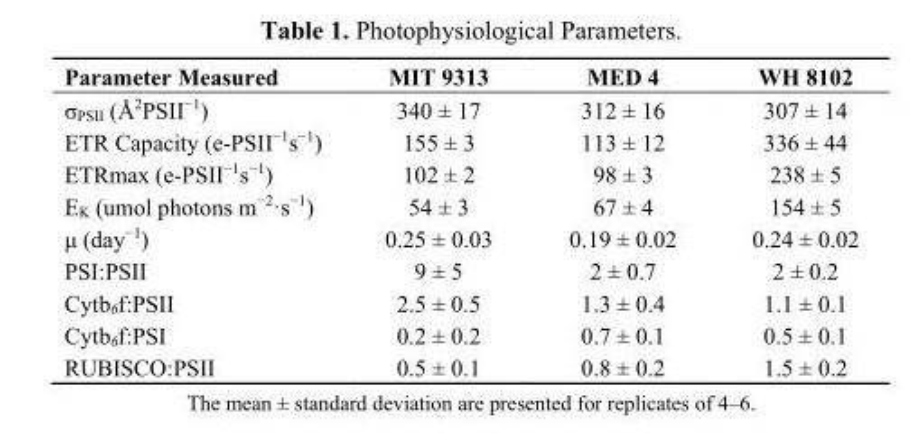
<table><thead><tr><td>Parameter Measured</td><td>MIT 9313</td><td>MED 4</td><td>WH 8102</td></tr></thead><tbody><tr><td>σ<sub>PSII</sub> (Å<sup>2</sup>PSII<sup>−1</sup>)</td><td>340 ± 17</td><td>312 ± 16</td><td>307 ± 14</td></tr><tr><td>ETR Capacity (e-PSII<sup>−1</sup>s<sup>−1</sup>)</td><td>155 ± 3</td><td>113 ± 12</td><td>336 ± 44</td></tr><tr><td>ETRmax (e-PSII<sup>−1</sup>s<sup>−1</sup>)</td><td>102 ± 2</td><td>98 ± 3</td><td>238 ± 5</td></tr><tr><td>E<sub>K</sub> (umol photons m<sup>−2</sup>·s<sup>−1</sup>)</td><td>54 ± 3</td><td>67 ± 4</td><td>154 ± 5</td></tr><tr><td>μ (day<sup>−1</sup>)</td><td>0.25 ± 0.03</td><td>0.19 ± 0.02</td><td>0.24 ± 0.02</td></tr><tr><td>PSI:PSII</td><td>9 ± 5</td><td>2 ± 0.7</td><td>2 ± 0.2</td></tr><tr><td>Cytb<sub>6</sub>f:PSII</td><td>2.5 ± 0.5</td><td>1.3 ± 0.4</td><td>1.1 ± 0.1</td></tr><tr><td>Cytb<sub>6</sub>f:PSI</td><td>0.2 ± 0.2</td><td>0.7 ± 0.1</td><td>0.5 ± 0.1</td></tr><tr><td>RUBISCO:PSII</td><td>0.5 ± 0.1</td><td>0.8 ± 0.2</td><td>1.5 ± 0.2</td></tr></tbody></table>